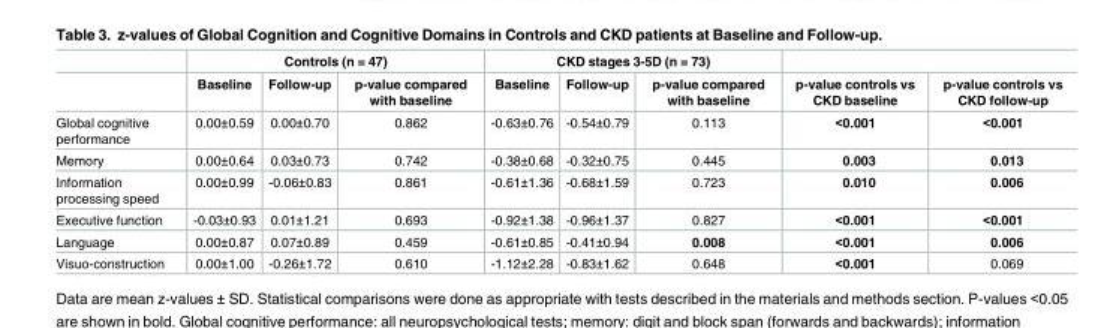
<table><thead><tr><td rowspan="2"></td><td colspan="3">Controls (n = 47)</td><td colspan="3">CKD stages 3-5D (n = 73)</td><td rowspan="2">p-value controls vs CKD baseline</td><td rowspan="2">p-value controls vs CKD follow-up</td></tr><tr><td>Baseline</td><td>Follow-up</td><td>p-value compared with baseline</td><td>Baseline</td><td>Follow-up</td><td>p-value compared with baseline</td></tr></thead><tbody><tr><td>Global cognitive performance</td><td>0.00±0.59</td><td>0.00±0.70</td><td>0.862</td><td>-0.63±0.76</td><td>-0.54±0.79</td><td>0.113</td><td>&lt;0.001</td><td>&lt;0.001</td></tr><tr><td>Memory</td><td>0.00±0.64</td><td>0.03±0.73</td><td>0.742</td><td>-0.38±0.68</td><td>-0.32±0.75</td><td>0.445</td><td>0.003</td><td>0.013</td></tr><tr><td>Information processing speed</td><td>0.00±0.99</td><td>-0.06±0.83</td><td>0.861</td><td>-0.61±1.36</td><td>-0.68±1.59</td><td>0.723</td><td>0.010</td><td>0.006</td></tr><tr><td>Executive function</td><td>-0.03±0.93</td><td>0.01±1.21</td><td>0.693</td><td>-0.92±1.38</td><td>-0.96±1.37</td><td>0.827</td><td>&lt;0.001</td><td>&lt;0.001</td></tr><tr><td>Language</td><td>0.00±0.87</td><td>0.07±0.89</td><td>0.459</td><td>-0.61±0.85</td><td>-0.41±0.94</td><td>0.008</td><td>&lt;0.001</td><td>0.006</td></tr><tr><td>Visuo-construction</td><td>0.00±1.00</td><td>-0.26±1.72</td><td>0.610</td><td>-1.12±2.28</td><td>-0.83±1.62</td><td>0.648</td><td>&lt;0.001</td><td>0.069</td></tr></tbody></table>